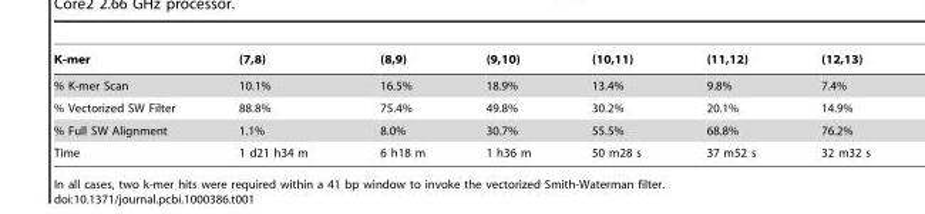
<table><thead><tr><td>K-mer</td><td>(7,8)</td><td>(8,9)</td><td>(9,10)</td><td>(10,11)</td><td>(11,12)</td><td>(12,13)</td></tr></thead><tbody><tr><td>% K-mer Scan</td><td>10.1%</td><td>16.5%</td><td>18.9%</td><td>13.4%</td><td>9.8%</td><td>7.4%</td></tr><tr><td>% Vectorized SW Filter</td><td>88.8%</td><td>75.4%</td><td>49.8%</td><td>30.2%</td><td>20.1%</td><td>14.9%</td></tr><tr><td>% Full SW Alignment</td><td>1.1%</td><td>8.0%</td><td>30.7%</td><td>55.5%</td><td>68.8%</td><td>76.2%</td></tr><tr><td>Time</td><td>1 d21 h34 m</td><td>6 h18 m</td><td>1 h36 m</td><td>50 m28 s</td><td>37 m52 s</td><td>32 m32 s</td></tr></tbody></table>